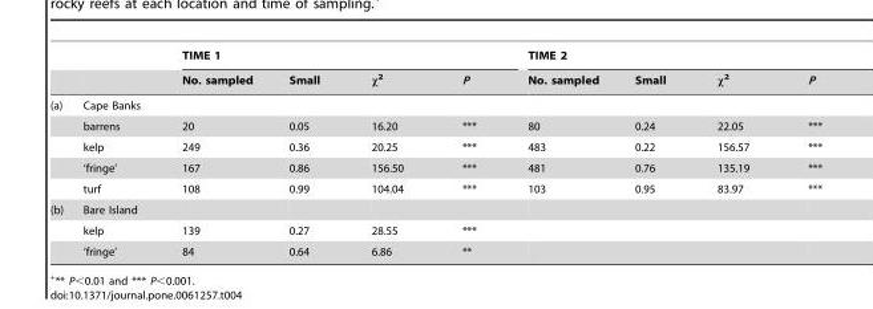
<table><thead><tr><td rowspan="2"></td><td rowspan="2"></td><td colspan="4">TIME 1</td><td colspan="4">TIME 2</td></tr><tr><td>No. sampled</td><td>Small</td><td>x2</td><td>P</td><td>No. sampled</td><td>Small</td><td>x2</td><td>P</td></tr></thead><tbody><tr><td rowspan="5">(a)</td><td>Cape Banks</td><td></td><td></td><td></td><td></td><td></td><td></td><td></td><td></td></tr><tr><td>barrens</td><td>20</td><td>0.05</td><td>16.20</td><td>***</td><td>80</td><td>0.24</td><td>22.05</td><td>***</td></tr><tr><td>kelp</td><td>249</td><td>0.36</td><td>20.25</td><td>***</td><td>483</td><td>0.22</td><td>156.57</td><td>***</td></tr><tr><td>‘fringe’</td><td>167</td><td>0.86</td><td>156.50</td><td>***</td><td>481</td><td>0.76</td><td>135.19</td><td>***</td></tr><tr><td>turf</td><td>108</td><td>0.99</td><td>104.04</td><td>***</td><td>103</td><td>0.95</td><td>83.97</td><td>***</td></tr><tr><td rowspan="3">(b)</td><td>Bare Island</td><td></td><td></td><td></td><td></td><td></td><td></td><td></td><td></td></tr><tr><td>kelp</td><td>139</td><td>0.27</td><td>28.55</td><td>***</td><td></td><td></td><td></td><td></td></tr><tr><td>‘fringe’</td><td>84</td><td>0.64</td><td>6.86</td><td>**</td><td></td><td></td><td></td><td></td></tr></tbody></table>